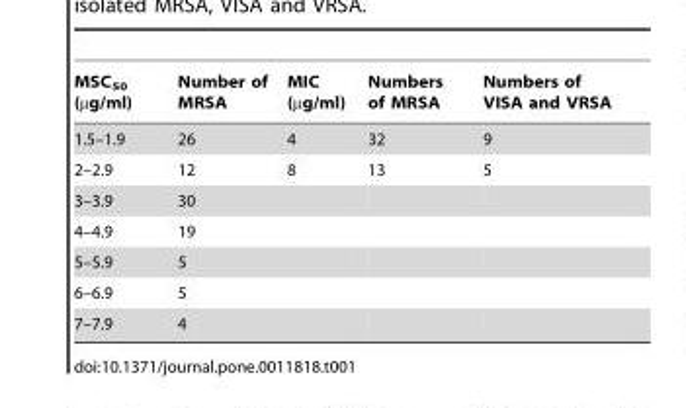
<table><thead><tr><td>MSC<sub>50</sub> (µg/ml)</td><td>Number of MRSA</td><td>MIC (µg/ml)</td><td>Numbers of MRSA</td><td>Numbers of VISA and VRSA</td></tr></thead><tbody><tr><td>1.5–1.9</td><td>26</td><td>4</td><td>32</td><td>9</td></tr><tr><td>2–2.9</td><td>12</td><td>8</td><td>13</td><td>5</td></tr><tr><td>3–3.9</td><td>30</td><td></td><td></td><td></td></tr><tr><td>4–4.9</td><td>19</td><td></td><td></td><td></td></tr><tr><td>5–5.9</td><td>5</td><td></td><td></td><td></td></tr><tr><td>6–6.9</td><td>5</td><td></td><td></td><td></td></tr><tr><td>7–7.9</td><td>4</td><td></td><td></td><td></td></tr></tbody></table>